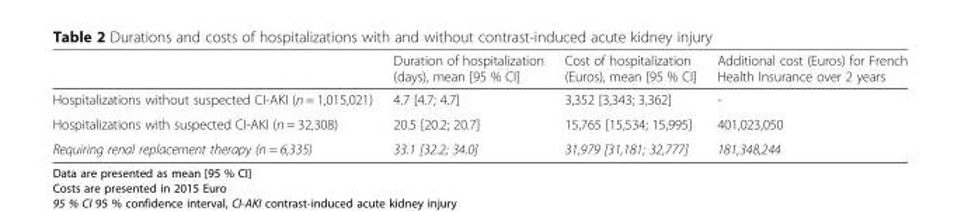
<table><thead><tr><td></td><td>Duration of hospitalization (days), mean [95 % CI]</td><td>Cost of hospitalization (Euros), mean [95 % CI]</td><td>Additional cost (Euros) for French Health Insurance over 2 years</td></tr></thead><tbody><tr><td>Hospitalizations without suspected CI-AKI (n = 1,015,021)</td><td>4.7 [4.7; 4.7]</td><td>3,352 [3,343; 3,362]</td><td>-</td></tr><tr><td>Hospitalizations with suspected CI-AKI (n = 32,308)</td><td>20.5 [20.2; 20.7]</td><td>15,765 [15,534; 15,995]</td><td>401,023,050</td></tr><tr><td>Requiring renal replacement therapy (n = 6,335)</td><td>33.1 [32.2; 34.0]</td><td>31,979 [31,181; 32,777]</td><td>181,348,244</td></tr></tbody></table>